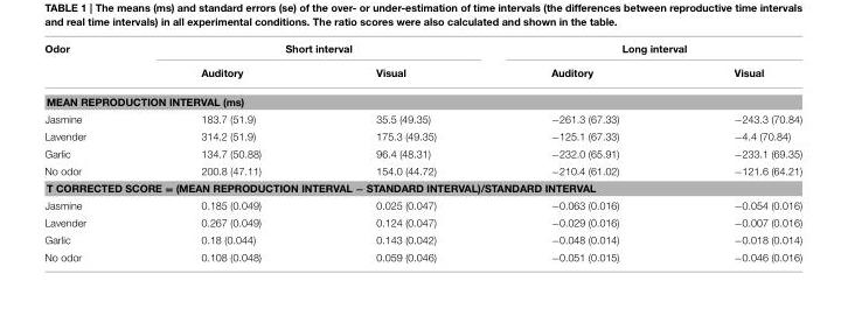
<table><thead><tr><td rowspan="2">Odor</td><td colspan="2">Short interval</td><td colspan="2">Long interval</td></tr><tr><td>Auditory</td><td>Visual</td><td>Auditory</td><td>Visual</td></tr></thead><tbody><tr><td colspan="5">MEAN REPRODUCTION INTERVAL (ms)</td></tr><tr><td>Jasmine</td><td>183.7 (51.9)</td><td>35.5 (49.35)</td><td>−261.3 (67.33)</td><td>−243.3 (70.84)</td></tr><tr><td>Lavender</td><td>314.2 (51.9)</td><td>175.3 (49.35)</td><td>−125.1 (67.33)</td><td>−4.4 (70.84)</td></tr><tr><td>Garlic</td><td>134.7 (50.88)</td><td>96.4 (48.31)</td><td>−232.0 (65.91)</td><td>−233.1 (69.35)</td></tr><tr><td>No odor</td><td>200.8 (47.11)</td><td>154.0 (44.72)</td><td>−210.4 (61.02)</td><td>−121.6 (64.21)</td></tr><tr><td colspan="5">T CORRECTED SCORE = (MEAN REPRODUCTION INTERVAL − STANDARD INTERVAL)/STANDARD INTERVAL</td></tr><tr><td>Jasmine</td><td>0.185 (0.049)</td><td>0.025 (0.047)</td><td>−0.063 (0.016)</td><td>−0.054 (0.016)</td></tr><tr><td>Lavender</td><td>0.267 (0.049)</td><td>0.124 (0.047)</td><td>−0.029 (0.016)</td><td>−0.007 (0.016)</td></tr><tr><td>Garlic</td><td>0.18 (0.044)</td><td>0.143 (0.042)</td><td>−0.048 (0.014)</td><td>−0.018 (0.014)</td></tr><tr><td>No odor</td><td>0.108 (0.048)</td><td>0.059 (0.046)</td><td>−0.051 (0.015)</td><td>−0.046 (0.016)</td></tr></tbody></table>